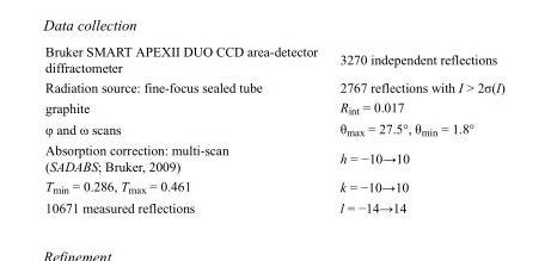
<table><tbody><tr><td>Bruker SMART APEXII DUO CCD area-detector diffractometer</td><td>3270 independent reflections</td></tr><tr><td>Radiation source: fine-focus sealed tube</td><td>2767 reflections with I &gt; 2σ(I)</td></tr><tr><td>graphite</td><td>R<sub>int</sub> = 0.017</td></tr><tr><td>φ and ω scans</td><td>θ<sub>max</sub> = 27.5°, θ<sub>min</sub> = 1.8°</td></tr><tr><td>Absorption correction: multi-scan (SADABS; Bruker, 2009)</td><td>h = −10→10</td></tr><tr><td>T<sub>min</sub> = 0.286, T<sub>max</sub> = 0.461</td><td>k = −10→10</td></tr><tr><td>10671 measured reflections</td><td>l = −14→14</td></tr></tbody></table>